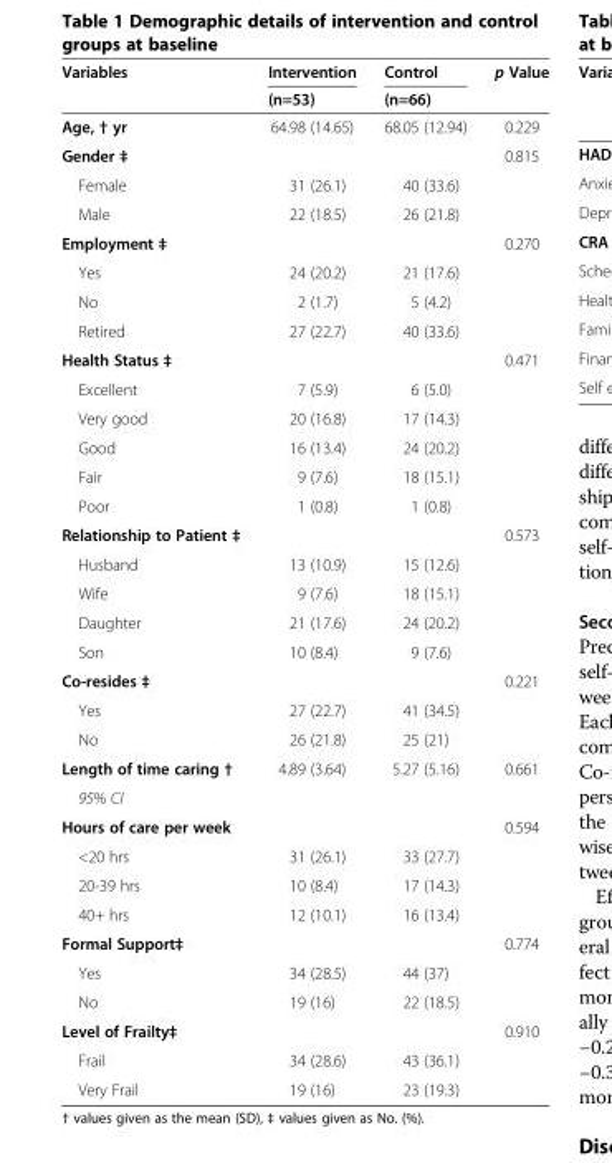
<table><thead><tr><td rowspan="2">Variables</td><td rowspan="2">Intervention (n=53)</td><td rowspan="2">Control (n=66)</td><td rowspan="2">p Value</td></tr><tr></tr></thead><tbody><tr><td>Age, † yr</td><td>64.98 (14.65)</td><td>68.05 (12.94)</td><td>0.229</td></tr><tr><td>Gender ‡</td><td></td><td></td><td>0.815</td></tr><tr><td>Female</td><td>31 (26.1)</td><td>40 (33.6)</td><td></td></tr><tr><td>Male</td><td>22 (18.5)</td><td>26 (21.8)</td><td></td></tr><tr><td>Employment ‡</td><td></td><td></td><td>0.270</td></tr><tr><td>Yes</td><td>24 (20.2)</td><td>21 (17.6)</td><td></td></tr><tr><td>No</td><td>2 (1.7)</td><td>5 (4.2)</td><td></td></tr><tr><td>Retired</td><td>27 (22.7)</td><td>40 (33.6)</td><td></td></tr><tr><td>Health Status ‡</td><td></td><td></td><td>0.471</td></tr><tr><td>Excellent</td><td>7 (5.9)</td><td>6 (5.0)</td><td></td></tr><tr><td>Very good</td><td>20 (16.8)</td><td>17 (14.3)</td><td></td></tr><tr><td>Good</td><td>16 (13.4)</td><td>24 (20.2)</td><td></td></tr><tr><td>Fair</td><td>9 (7.6)</td><td>18 (15.1)</td><td></td></tr><tr><td>Poor</td><td>1 (0.8)</td><td>1 (0.8)</td><td></td></tr><tr><td>Relationship to Patient ‡</td><td></td><td></td><td>0.573</td></tr><tr><td>Husband</td><td>13 (10.9)</td><td>15 (12.6)</td><td></td></tr><tr><td>Wife</td><td>9 (7.6)</td><td>18 (15.1)</td><td></td></tr><tr><td>Daughter</td><td>21 (17.6)</td><td>24 (20.2)</td><td></td></tr><tr><td>Son</td><td>10 (8.4)</td><td>9 (7.6)</td><td></td></tr><tr><td>Co-resides ‡</td><td></td><td></td><td>0.221</td></tr><tr><td>Yes</td><td>27 (22.7)</td><td>41 (34.5)</td><td></td></tr><tr><td>No</td><td>26 (21.8)</td><td>25 (21)</td><td></td></tr><tr><td>Length of time caring †</td><td>4.89 (3.64)</td><td>5.27 (5.16)</td><td>0.661</td></tr><tr><td colspan="4">95% CI</td></tr><tr><td>Hours of care per week</td><td></td><td></td><td>0.594</td></tr><tr><td>&lt;20 hrs</td><td>31 (26.1)</td><td>33 (27.7)</td><td></td></tr><tr><td>20-39 hrs</td><td>10 (8.4)</td><td>17 (14.3)</td><td></td></tr><tr><td>40+ hrs</td><td>12 (10.1)</td><td>16 (13.4)</td><td></td></tr><tr><td>Formal Support‡</td><td></td><td></td><td>0.774</td></tr><tr><td>Yes</td><td>34 (28.5)</td><td>44 (37)</td><td></td></tr><tr><td>No</td><td>19 (16)</td><td>22 (18.5)</td><td></td></tr><tr><td>Level of Frailty‡</td><td></td><td></td><td>0.910</td></tr><tr><td>Frail</td><td>34 (28.6)</td><td>43 (36.1)</td><td></td></tr><tr><td>Very Frail</td><td>19 (16)</td><td>23 (19.3)</td><td></td></tr></tbody></table>